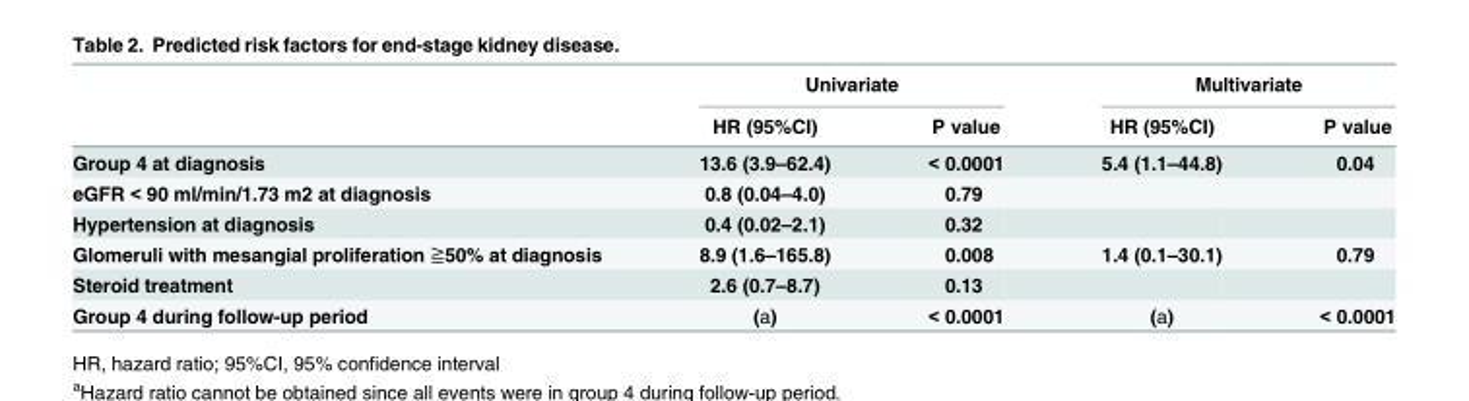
<table><thead><tr><td rowspan="2"></td><td colspan="2">Univariate</td><td colspan="2">Multivariate</td></tr><tr><td>HR (95%CI)</td><td>P value</td><td>HR (95%CI)</td><td>P value</td></tr></thead><tbody><tr><td>Group 4 at diagnosis</td><td>13.6 (3.9–62.4)</td><td>&lt; 0.0001</td><td>5.4 (1.1–44.8)</td><td>0.04</td></tr><tr><td>eGFR &lt; 90 ml/min/1.73 m2 at diagnosis</td><td>0.8 (0.04–4.0)</td><td>0.79</td><td></td><td></td></tr><tr><td>Hypertension at diagnosis</td><td>0.4 (0.02–2.1)</td><td>0.32</td><td></td><td></td></tr><tr><td>Glomeruli with mesangial proliferation ≧50% at diagnosis</td><td>8.9 (1.6–165.8)</td><td>0.008</td><td>1.4 (0.1–30.1)</td><td>0.79</td></tr><tr><td>Steroid treatment</td><td>2.6 (0.7–8.7)</td><td>0.13</td><td></td><td></td></tr><tr><td>Group 4 during follow-up period</td><td>(a)</td><td>&lt; 0.0001</td><td>(a)</td><td>&lt; 0.0001</td></tr></tbody></table>